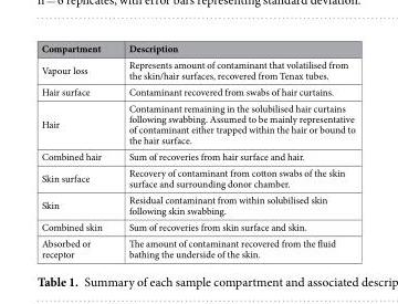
<table><thead><tr><td>Compartment</td><td>Description</td></tr></thead><tbody><tr><td>Vapour loss</td><td>Represents amount of contaminant that volatilised from the skin/hair surfaces, recovered from Tenax tubes.</td></tr><tr><td>Hair surface</td><td>Contaminant recovered from swabs of hair curtains.</td></tr><tr><td>Hair</td><td>Contaminant remaining in the solubilised hair curtains following swabbing. Assumed to be mainly representative of contaminant either trapped within the hair or bound to the hair surface.</td></tr><tr><td>Combined hair</td><td>Sum of recoveries from hair surface and hair.</td></tr><tr><td>Skin surface</td><td>Recovery of contaminant from cotton swabs of the skin surface and surrounding donor chamber.</td></tr><tr><td>Skin</td><td>Residual contaminant from within solubilised skin following skin swabbing.</td></tr><tr><td>Combined skin</td><td>Sum of recoveries from skin surface and skin.</td></tr><tr><td>Absorbed or receptor</td><td>The amount of contaminant recovered from the fluid bathing the underside of the skin.</td></tr></tbody></table>